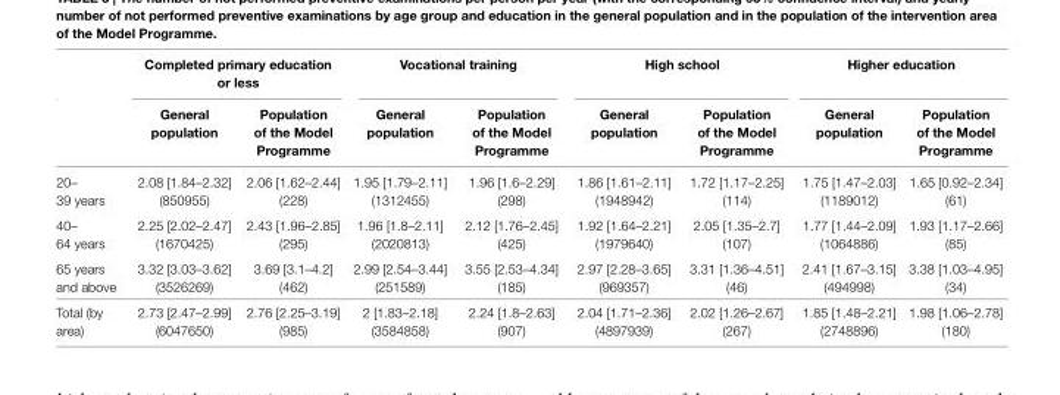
<table><thead><tr><td rowspan="2"></td><td colspan="2">completed primary education or less</td><td colspan="2">Vocational training</td><td colspan="2">high school</td><td colspan="2">higher education</td></tr><tr><td>general population</td><td>Population of the Model Programme</td><td>general population</td><td>Population of the Model Programme</td><td>general population</td><td>Population of the Model Programme</td><td>general population</td><td>Population of the Model Programme</td></tr></thead><tbody><tr><td>20– 39 years</td><td>2.08 [1.84–2.32] (850955)</td><td>2.06 [1.62–2.44] (228)</td><td>1.95 [1.79–2.11] (1312455)</td><td>1.96 [1.6–2.29] (298)</td><td>1.86 [1.61–2.11] (1948942)</td><td>1.72 [1.17–2.25] (114)</td><td>1.75 [1.47–2.03] (1189012)</td><td>1.65 [0.92–2.34] (61)</td></tr><tr><td>40– 64 years</td><td>2.25 [2.02–2.47] (1670425)</td><td>2.43 [1.96–2.85] (295)</td><td>1.96 [1.8–2.11] (2020813)</td><td>2.12 [1.76–2.45] (425)</td><td>1.92 [1.64–2.21] (1979640)</td><td>2.05 [1.35–2.7] (107)</td><td>1.77 [1.44–2.09] (1064886)</td><td>1.93 [1.17–2.66] (85)</td></tr><tr><td>65 years and above</td><td>3.32 [3.03–3.62] (3526269)</td><td>3.69 [3.1–4.2] (462)</td><td>2.99 [2.54–3.44] (251589)</td><td>3.55 [2.53–4.34] (185)</td><td>2.97 [2.28–3.65] (969357)</td><td>3.31 [1.36–4.51] (46)</td><td>2.41 [1.67–3.15] (494998)</td><td>3.38 [1.03–4.95] (34)</td></tr><tr><td>Total (by area)</td><td>2.73 [2.47–2.99] (6047650)</td><td>2.76 [2.25–3.19] (985)</td><td>2 [1.83–2.18] (3584858)</td><td>2.24 [1.8–2.63] (907)</td><td>2.04 [1.71–2.36] (4897939)</td><td>2.02 [1.26–2.67] (267)</td><td>1.85 [1.48–2.21] (2748896)</td><td>1.98 [1.06–2.78] (180)</td></tr></tbody></table>